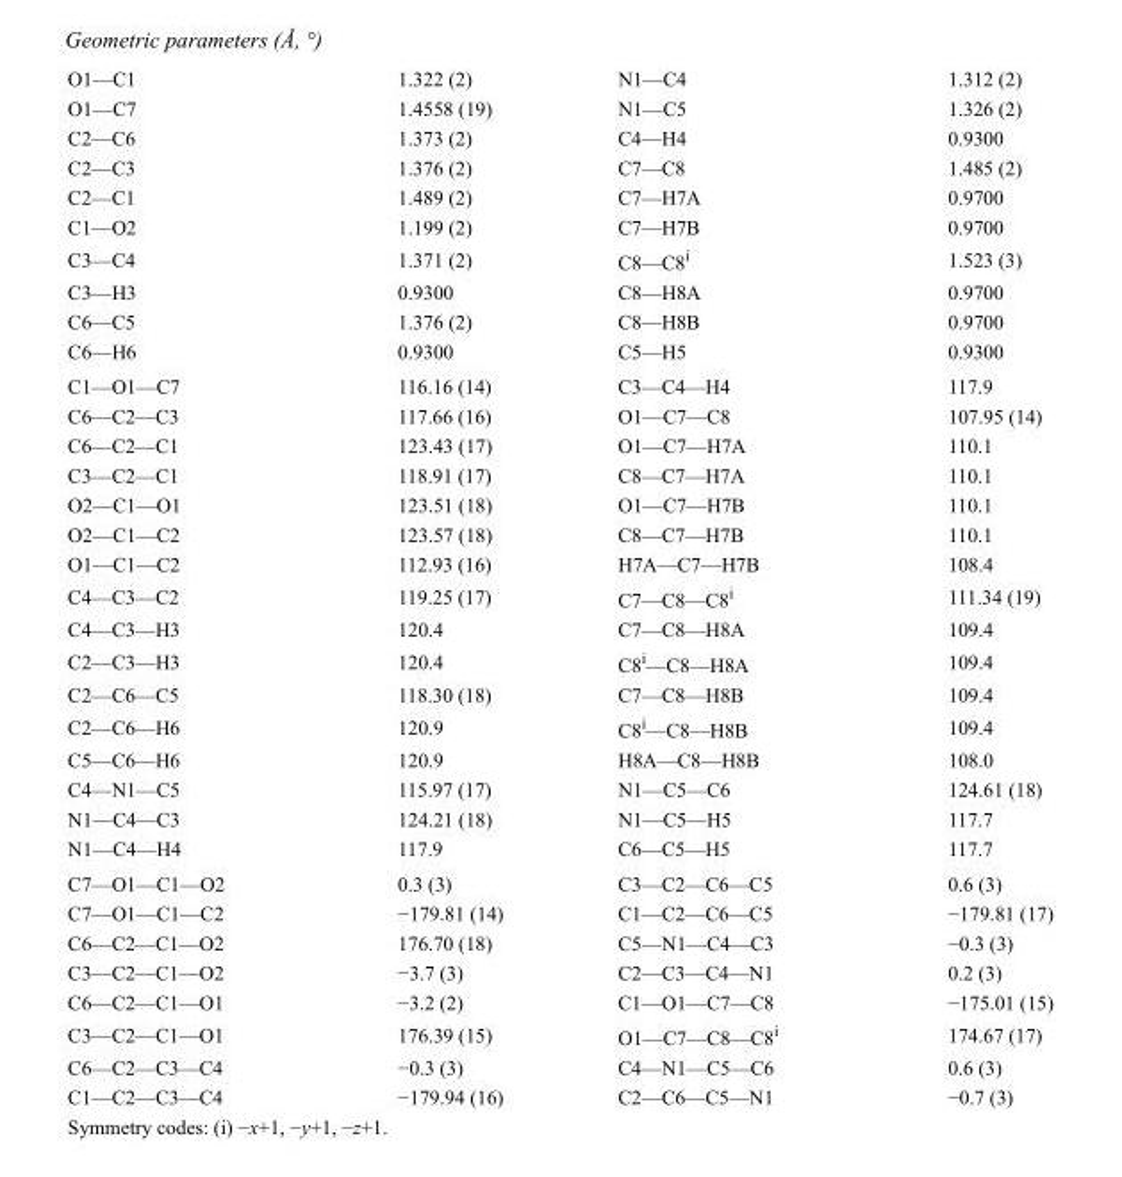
<table><tbody><tr><td>O1—C1</td><td>1.322 (2)</td><td>N1—C4</td><td>1.312 (2)</td></tr><tr><td>O1—C7</td><td>1.4558 (19)</td><td>N1—C5</td><td>1.326 (2)</td></tr><tr><td>C2—C6</td><td>1.373 (2)</td><td>C4—H4</td><td>0.9300</td></tr><tr><td>C2—C3</td><td>1.376 (2)</td><td>C7—C8</td><td>1.485 (2)</td></tr><tr><td>C2—C1</td><td>1.489 (2)</td><td>C7—H7A</td><td>0.9700</td></tr><tr><td>C1—O2</td><td>1.199 (2)</td><td>C7—H7B</td><td>0.9700</td></tr><tr><td>C3—C4</td><td>1.371 (2)</td><td>C8—C8<sup>i</sup></td><td>1.523 (3)</td></tr><tr><td>C3—H3</td><td>0.9300</td><td>C8—H8A</td><td>0.9700</td></tr><tr><td>C6—C5</td><td>1.376 (2)</td><td>C8—H8B</td><td>0.9700</td></tr><tr><td>C6—H6</td><td>0.9300</td><td>C5—H5</td><td>0.9300</td></tr><tr><td>C1—O1—C7</td><td>116.16 (14)</td><td>C3—C4—H4</td><td>117.9</td></tr><tr><td>C6—C2—C3</td><td>117.66 (16)</td><td>O1—C7—C8</td><td>107.95 (14)</td></tr><tr><td>C6—C2—C1</td><td>123.43 (17)</td><td>O1—C7—H7A</td><td>110.1</td></tr><tr><td>C3—C2—C1</td><td>118.91 (17)</td><td>C8—C7—H7A</td><td>110.1</td></tr><tr><td>O2—C1—O1</td><td>123.51 (18)</td><td>O1—C7—H7B</td><td>110.1</td></tr><tr><td>O2—C1—C2</td><td>123.57 (18)</td><td>C8—C7—H7B</td><td>110.1</td></tr><tr><td>O1—C1—C2</td><td>112.93 (16)</td><td>H7A—C7—H7B</td><td>108.4</td></tr><tr><td>C4—C3—C2</td><td>119.25 (17)</td><td>C7—C8—C8<sup>i</sup></td><td>111.34 (19)</td></tr><tr><td>C4—C3—H3</td><td>120.4</td><td>C7—C8—H8A</td><td>109.4</td></tr><tr><td>C2—C3—H3</td><td>120.4</td><td>C8<sup>i</sup>—C8—H8A</td><td>109.4</td></tr><tr><td>C2—C6—C5</td><td>118.30 (18)</td><td>C7—C8—H8B</td><td>109.4</td></tr><tr><td>C2—C6—H6</td><td>120.9</td><td>C8<sup>i</sup>—C8—H8B</td><td>109.4</td></tr><tr><td>C5—C6—H6</td><td>120.9</td><td>H8A—C8—H8B</td><td>108.0</td></tr><tr><td>C4—N1—C5</td><td>115.97 (17)</td><td>N1—C5—C6</td><td>124.61 (18)</td></tr><tr><td>N1—C4—C3</td><td>124.21 (18)</td><td>N1—C5—H5</td><td>117.7</td></tr><tr><td>N1—C4—H4</td><td>117.9</td><td>C6—C5—H5</td><td>117.7</td></tr><tr><td>C7—O1—C1—O2</td><td>0.3 (3)</td><td>C3—C2—C6—C5</td><td>0.6 (3)</td></tr><tr><td>C7—O1—C1—C2</td><td>−179.81 (14)</td><td>C1—C2—C6—C5</td><td>−179.81 (17)</td></tr><tr><td>C6—C2—C1—O2</td><td>176.70 (18)</td><td>C5—N1—C4—C3</td><td>−0.3 (3)</td></tr><tr><td>C3—C2—C1—O2</td><td>−3.7 (3)</td><td>C2—C3—C4—N1</td><td>0.2 (3)</td></tr><tr><td>C6—C2—C1—O1</td><td>−3.2 (2)</td><td>C1—O1—C7—C8</td><td>−175.01 (15)</td></tr><tr><td>C3—C2—C1—O1</td><td>176.39 (15)</td><td>O1—C7—C8—C8<sup>i</sup></td><td>174.67 (17)</td></tr><tr><td>C6—C2—C3—C4</td><td>−0.3 (3)</td><td>C4—N1—C5—C6</td><td>0.6 (3)</td></tr><tr><td>C1—C2—C3—C4</td><td>−179.94 (16)</td><td>C2—C6—C5—N1</td><td>−0.7 (3)</td></tr></tbody></table>